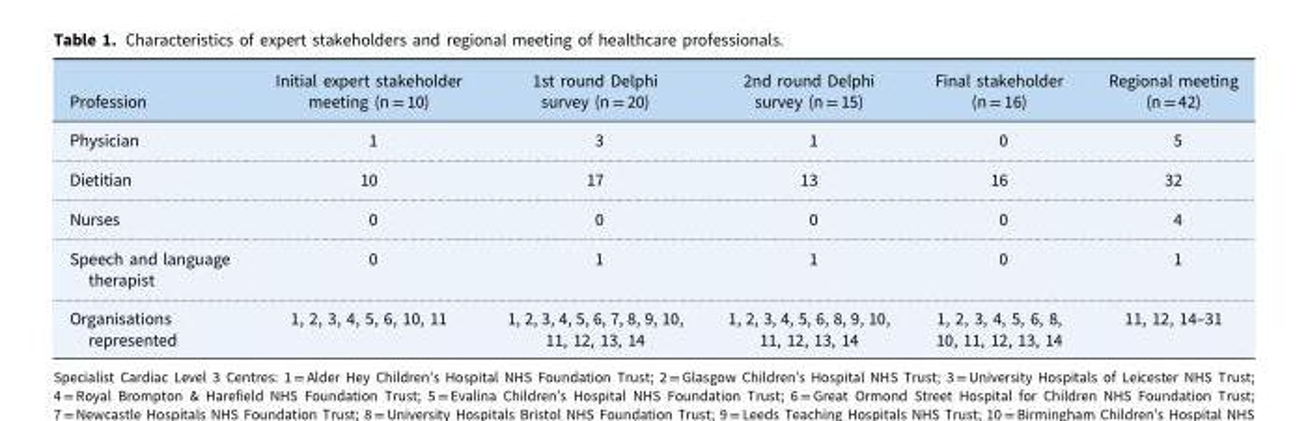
<table><thead><tr><td>Profession</td><td>Initial expert stakeholder meeting (n = 10)</td><td>1st round Delphi survey (n = 20)</td><td>2nd round Delphi survey (n = 15)</td><td>Final stakeholder (n = 16)</td><td>Regional meeting (n = 42)</td></tr></thead><tbody><tr><td>Physician</td><td>1</td><td>3</td><td>1</td><td>0</td><td>5</td></tr><tr><td>Dietitian</td><td>10</td><td>17</td><td>13</td><td>16</td><td>32</td></tr><tr><td>Nurses</td><td>0</td><td>0</td><td>0</td><td>0</td><td>4</td></tr><tr><td>Speech and language therapist</td><td>0</td><td>1</td><td>1</td><td>0</td><td>1</td></tr><tr><td>Organisations represented</td><td>1, 2, 3, 4, 5, 6, 10, 11</td><td>1, 2, 3, 4, 5, 6, 7, 8, 9, 10, 11, 12, 13, 14</td><td>1, 2, 3, 4, 5, 6, 8, 9, 10, 11, 12, 13, 14</td><td>1, 2, 3, 4, 5, 6, 8, 10, 11, 12, 13, 14</td><td>11, 12, 14–31</td></tr></tbody></table>